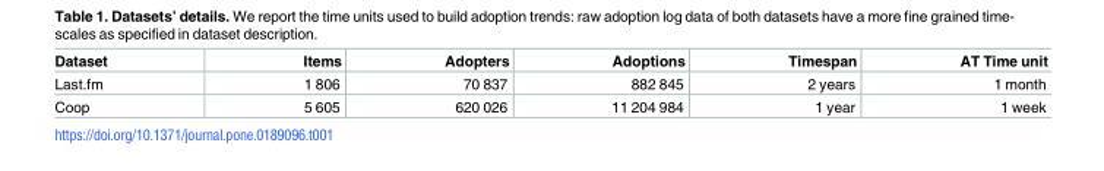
<table><thead><tr><td>Dataset</td><td>Items</td><td>Adopters</td><td>Adoptions</td><td>Timespan</td><td>AT Time unit</td></tr></thead><tbody><tr><td>Last.fm</td><td>1 806</td><td>70 837</td><td>882 845</td><td>2 years</td><td>1 month</td></tr><tr><td>Coop</td><td>5 605</td><td>620 026</td><td>11 204 984</td><td>1 year</td><td>1 week</td></tr></tbody></table>